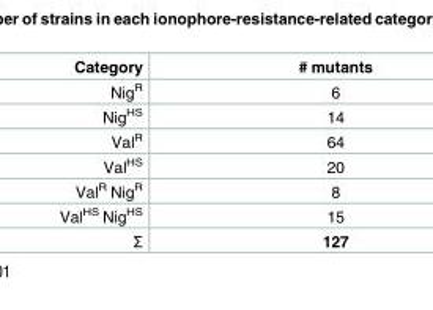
<table><thead><tr><td>Category</td><td># mutants</td></tr></thead><tbody><tr><td>Nig<sup>R</sup></td><td>6</td></tr><tr><td>Nig<sup>HS</sup></td><td>14</td></tr><tr><td>Val<sup>R</sup></td><td>64</td></tr><tr><td>Val<sup>HS</sup></td><td>20</td></tr><tr><td>Val<sup>R</sup> Nig<sup>R</sup></td><td>8</td></tr><tr><td>Val<sup>HS</sup> Nig<sup>HS</sup></td><td>15</td></tr><tr><td>Σ</td><td>127</td></tr></tbody></table>